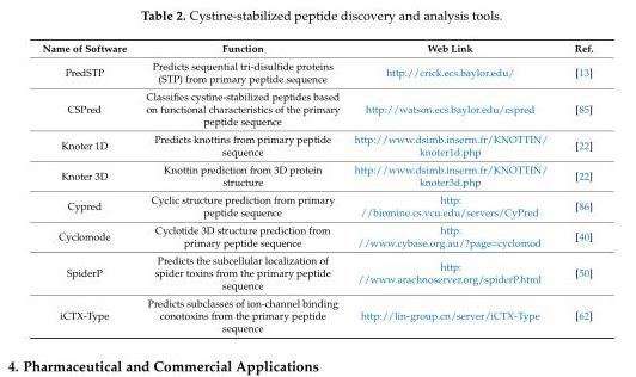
<table><thead><tr><td>Name of Software</td><td>Function</td><td>Web Link</td><td>Ref.</td></tr></thead><tbody><tr><td>PredSTP</td><td>Predicts sequential tri-disulfide proteins (STP) from primary peptide sequence</td><td>http://crick.ecs.baylor.edu/</td><td>[13]</td></tr><tr><td>CSPred</td><td>Classifies cystine-stabilized peptides based on functional characteristics of the primary peptide sequence</td><td>http://watson.ecs.baylor.edu/cspred</td><td>[85]</td></tr><tr><td>Knoter 1D</td><td>Predicts knottins from primary peptide sequence</td><td>http://www.dsimb.inserm.fr/KNOTTIN/ knoter1d.php</td><td>[22]</td></tr><tr><td>Knoter 3D</td><td>Knottin prediction from 3D protein structure</td><td>http://www.dsimb.inserm.fr/KNOTTIN/ knoter3d.php</td><td>[22]</td></tr><tr><td>Cypred</td><td>Cyclic structure prediction from primary peptide sequence</td><td>http: //biomine.cs.vcu.edu/servers/CyPred</td><td>[86]</td></tr><tr><td>Cyclomode</td><td>Cyclotide 3D structure prediction from primary peptide sequence</td><td>http: //www.cybase.org.au/?page=cyclomod</td><td>[40]</td></tr><tr><td>SpiderP</td><td>Predicts the subcellular localization of spider toxins from the primary peptide sequence</td><td>http: //www.arachnoserver.org/spiderP.html</td><td>[50]</td></tr><tr><td>iCTX-Type</td><td>Predicts subclasses of ion-channel binding conotoxins from the primary peptide sequence</td><td>http://lin-group.cn/server/iCTX-Type</td><td>[62]</td></tr></tbody></table>